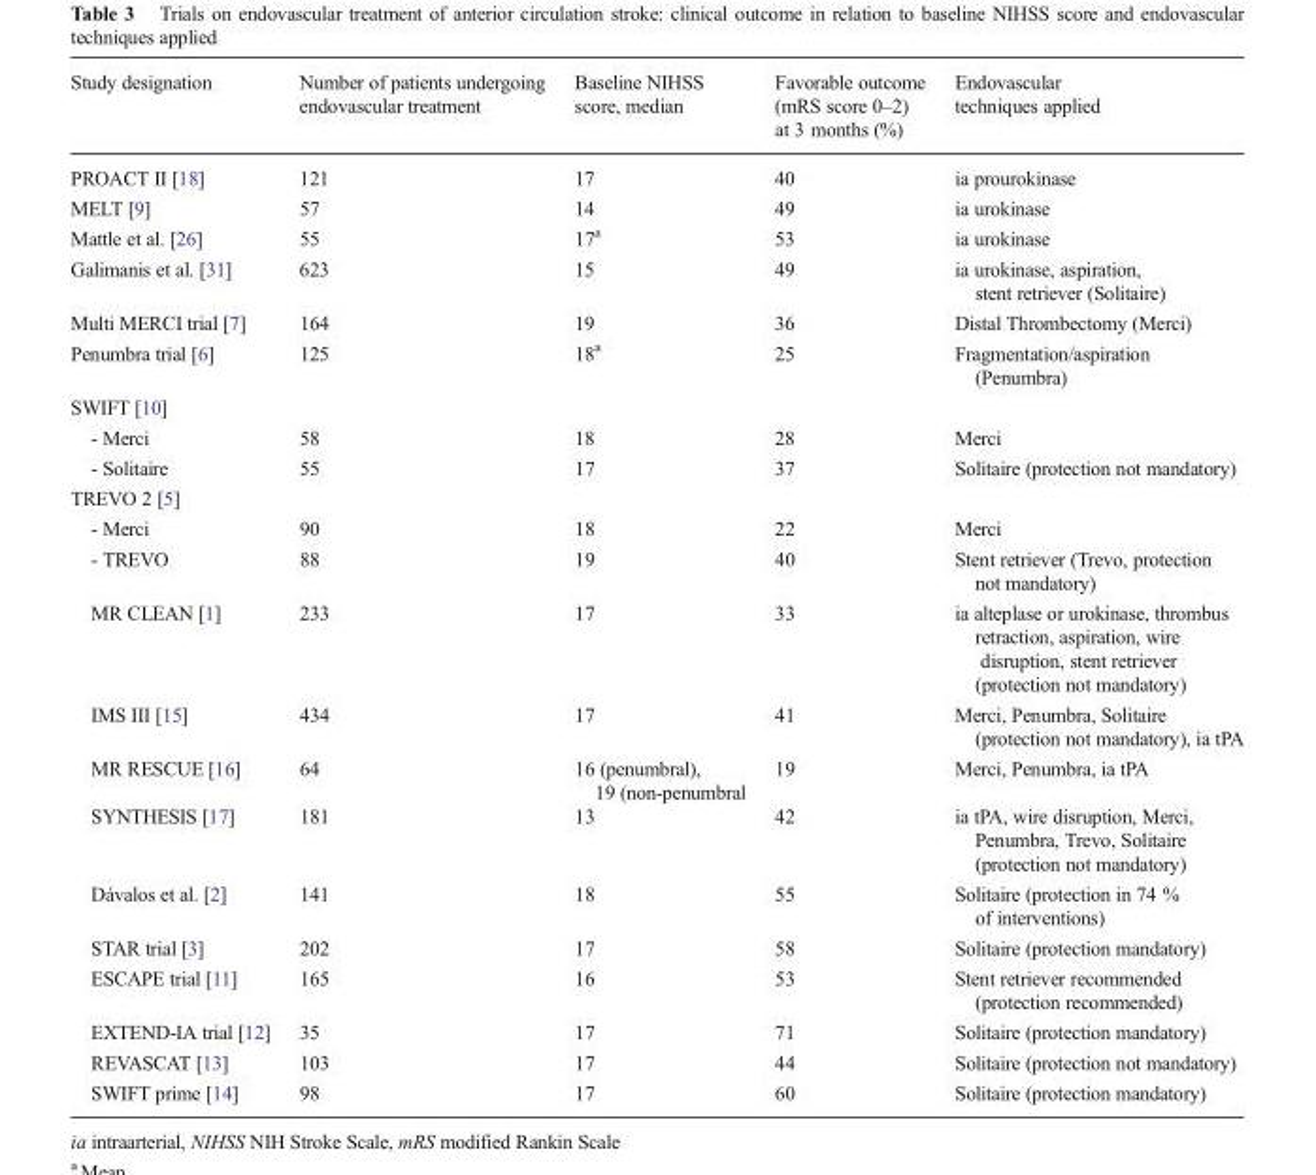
<table><thead><tr><td>Study designation</td><td>Number of patients undergoing endovascular treatment</td><td>Baseline NIHSS score, median</td><td>Favorable outcome (mRS score 0–2) at 3 months (%)</td><td>Endovascular techniques applied</td></tr></thead><tbody><tr><td>PROACT II [18]</td><td>121</td><td>17</td><td>40</td><td>ia prourokinase</td></tr><tr><td>MELT [9]</td><td>57</td><td>14</td><td>49</td><td>ia urokinase</td></tr><tr><td>Mattle et al. [26]</td><td>55</td><td>17<sup>a</sup></td><td>53</td><td>ia urokinase</td></tr><tr><td>Galimanis et al. [31]</td><td>623</td><td>15</td><td>49</td><td>ia urokinase, aspiration, stent retriever (Solitaire)</td></tr><tr><td>Multi MERCI trial [7]</td><td>164</td><td>19</td><td>36</td><td>Distal Thrombectomy (Merci)</td></tr><tr><td>Penumbra trial [6]</td><td>125</td><td>18<sup>a</sup></td><td>25</td><td>Fragmentation/aspiration (Penumbra)</td></tr><tr><td colspan="5">SWIFT [10]</td></tr><tr><td>- Merci</td><td>58</td><td>18</td><td>28</td><td>Merci</td></tr><tr><td>- Solitaire</td><td>55</td><td>17</td><td>37</td><td>Solitaire (protection not mandatory)</td></tr><tr><td colspan="5">TREVO 2 [5]</td></tr><tr><td>- Merci</td><td>90</td><td>18</td><td>22</td><td>Merci</td></tr><tr><td>- TREVO</td><td>88</td><td>19</td><td>40</td><td>Stent retriever (Trevo, protection not mandatory)</td></tr><tr><td>MR CLEAN [1]</td><td>233</td><td>17</td><td>33</td><td>ia alteplase or urokinase, thrombus retraction, aspiration, wire disruption, stent retriever (protection not mandatory)</td></tr><tr><td>IMS III [15]</td><td>434</td><td>17</td><td>41</td><td>Merci, Penumbra, Solitaire (protection not mandatory), ia tPA</td></tr><tr><td>MR RESCUE [16]</td><td>64</td><td>16 (penumbral), 19 (non-penumbral</td><td>19</td><td>Merci, Penumbra, ia tPA</td></tr><tr><td>SYNTHESIS [17]</td><td>181</td><td>13</td><td>42</td><td>ia tPA, wire disruption, Merci, Penumbra, Trevo, Solitaire (protection not mandatory)</td></tr><tr><td>Dávalos et al. [2]</td><td>141</td><td>18</td><td>55</td><td>Solitaire (protection in 74 % of interventions)</td></tr><tr><td>STAR trial [3]</td><td>202</td><td>17</td><td>58</td><td>Solitaire (protection mandatory)</td></tr><tr><td>ESCAPE trial [11]</td><td>165</td><td>16</td><td>53</td><td>Stent retriever recommended (protection recommended)</td></tr><tr><td>EXTEND-IA trial [12]</td><td>35</td><td>17</td><td>71</td><td>Solitaire (protection mandatory)</td></tr><tr><td>REVASCAT [13]</td><td>103</td><td>17</td><td>44</td><td>Solitaire (protection not mandatory)</td></tr><tr><td>SWIFT prime [14]</td><td>98</td><td>17</td><td>60</td><td>Solitaire (protection mandatory)</td></tr></tbody></table>